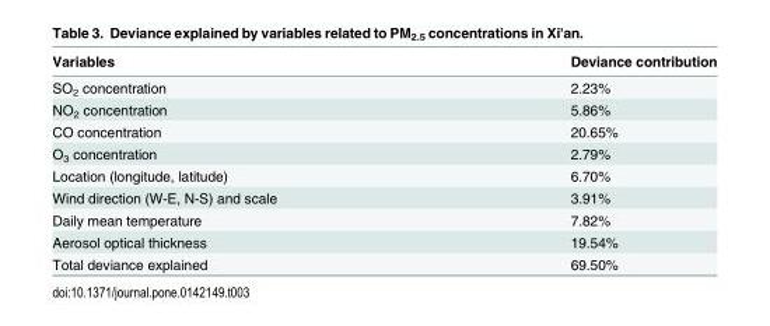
<table><thead><tr><td>Variables</td><td>Deviance contribution</td></tr></thead><tbody><tr><td>SO<sub>2</sub> concentration</td><td>2.23%</td></tr><tr><td>NO<sub>2</sub> concentration</td><td>5.86%</td></tr><tr><td>CO concentration</td><td>20.65%</td></tr><tr><td>O<sub>3</sub> concentration</td><td>2.79%</td></tr><tr><td>Location (longitude, latitude)</td><td>6.70%</td></tr><tr><td>Wind direction (W-E, N-S) and scale</td><td>3.91%</td></tr><tr><td>Daily mean temperature</td><td>7.82%</td></tr><tr><td>Aerosol optical thickness</td><td>19.54%</td></tr><tr><td>Total deviance explained</td><td>69.50%</td></tr></tbody></table>